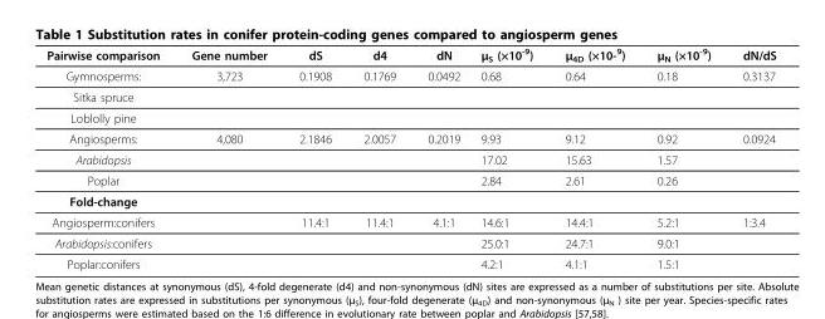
<table><thead><tr><td>Pairwise comparison</td><td>Gene number</td><td>dS</td><td>d4</td><td>dN</td><td>μ<sub>S</sub> (×10<sup>-9</sup>)</td><td>μ<sub>4D</sub> (×10-<sup>9</sup>)</td><td>μ<sub>N</sub> (×10<sup>-9</sup>)</td><td>dN/dS</td></tr></thead><tbody><tr><td>Gymnosperms:</td><td>3,723</td><td>0.1908</td><td>0.1769</td><td>0.0492</td><td>0.68</td><td>0.64</td><td>0.18</td><td>0.3137</td></tr><tr><td colspan="9">Sitka spruce</td></tr><tr><td colspan="9">Loblolly pine</td></tr><tr><td>Angiosperms:</td><td>4,080</td><td>2.1846</td><td>2.0057</td><td>0.2019</td><td>9.93</td><td>9.12</td><td>0.92</td><td>0.0924</td></tr><tr><td>Arabidopsis</td><td></td><td></td><td></td><td></td><td>17.02</td><td>15.63</td><td>1.57</td><td></td></tr><tr><td>Poplar</td><td></td><td></td><td></td><td></td><td>2.84</td><td>2.61</td><td>0.26</td><td></td></tr><tr><td colspan="9">Fold-change</td></tr><tr><td>Angiosperm:conifers</td><td></td><td>11.4:1</td><td>11.4:1</td><td>4.1:1</td><td>14.6:1</td><td>14.4:1</td><td>5.2:1</td><td>1:3.4</td></tr><tr><td>Arabidopsis:conifers</td><td></td><td></td><td></td><td></td><td>25.0:1</td><td>24.7:1</td><td>9.0:1</td><td></td></tr><tr><td>Poplar:conifers</td><td></td><td></td><td></td><td></td><td>4.2:1</td><td>4.1:1</td><td>1.5:1</td><td></td></tr></tbody></table>